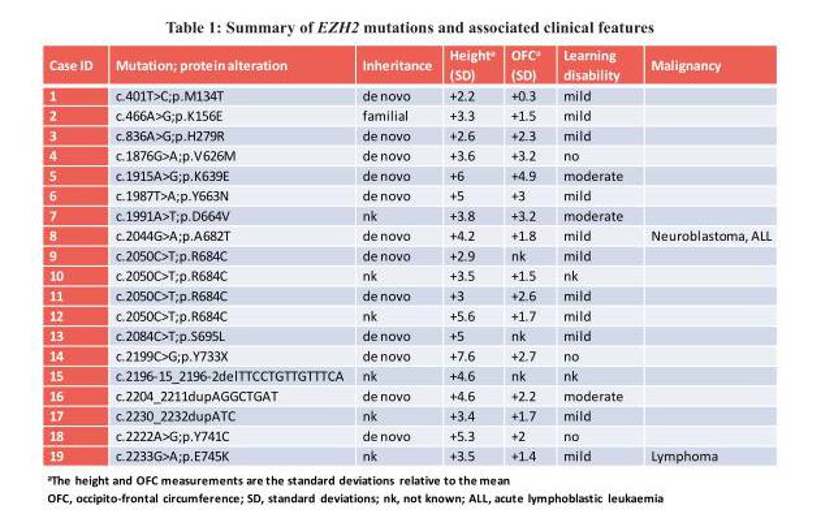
<table><thead><tr><td>Case ID</td><td>Mutation; protein alteration</td><td>Inheritance</td><td>Height<sup>a</sup> (SD)</td><td>OFC<sup>a</sup> (SD)</td><td>Learning disability</td><td>Malignancy</td></tr></thead><tbody><tr><td>1</td><td>c.401T&gt;C;p.M134T</td><td>de novo</td><td>+2.2</td><td>+0.3</td><td>mild</td><td></td></tr><tr><td>2</td><td>c.466A&gt;G;p.K156E</td><td>familial</td><td>+3.3</td><td>+1.5</td><td>mild</td><td></td></tr><tr><td>3</td><td>c.836A&gt;G;p.H279R</td><td>de novo</td><td>+2.6</td><td>+2.3</td><td>mild</td><td></td></tr><tr><td>4</td><td>c.1876G&gt;A;p.V626M</td><td>de novo</td><td>+3.6</td><td>+3.2</td><td>no</td><td></td></tr><tr><td>5</td><td>c.1915A&gt;G;p.K639E</td><td>de novo</td><td>+6</td><td>+4.9</td><td>moderate</td><td></td></tr><tr><td>6</td><td>c.1987T&gt;A;p.Y663N</td><td>de novo</td><td>+5</td><td>+3</td><td>mild</td><td></td></tr><tr><td>7</td><td>c.1991A&gt;T;p.D664V</td><td>nk</td><td>+3.8</td><td>+3.2</td><td>moderate</td><td></td></tr><tr><td>8</td><td>c.2044G&gt;A;p.A682T</td><td>de novo</td><td>+4.2</td><td>+1.8</td><td>mild</td><td>Neuroblastoma, ALL</td></tr><tr><td>9</td><td>c.2050C&gt;T;p.R684C</td><td>de novo</td><td>+2.9</td><td>nk</td><td>mild</td><td></td></tr><tr><td>10</td><td>c.2050C&gt;T;p.R684C</td><td>nk</td><td>+3.5</td><td>+1.5</td><td>nk</td><td></td></tr><tr><td>11</td><td>c.2050C&gt;T;p.R684C</td><td>de novo</td><td>+3</td><td>+2.6</td><td>mild</td><td></td></tr><tr><td>12</td><td>c.2050C&gt;T;p.R684C</td><td>nk</td><td>+5.6</td><td>+1.7</td><td>mild</td><td></td></tr><tr><td>13</td><td>c.2084C&gt;T;p.S695L</td><td>de novo</td><td>+5</td><td>nk</td><td>mild</td><td></td></tr><tr><td>14</td><td>c.2199C&gt;G;p.Y733X</td><td>de novo</td><td>+7.6</td><td>+2.7</td><td>no</td><td></td></tr><tr><td>15</td><td>c.2196-15_2196-2delTTCCTGTTGTTTCA</td><td>nk</td><td>+4.6</td><td>nk</td><td>nk</td><td></td></tr><tr><td>16</td><td>c.2204_2211dupAGGCTGAT</td><td>de novo</td><td>+4.6</td><td>+2.2</td><td>moderate</td><td></td></tr><tr><td>17</td><td>c.2230_2232dupATC</td><td>nk</td><td>+3.4</td><td>+1.7</td><td>mild</td><td></td></tr><tr><td>18</td><td>c.2222A&gt;G;p.Y741C</td><td>de novo</td><td>+5.3</td><td>+2</td><td>no</td><td></td></tr><tr><td>19</td><td>c.2233G&gt;A;p.E745K</td><td>nk</td><td>+3.5</td><td>+1.4</td><td>mild</td><td>Lymphoma</td></tr></tbody></table>